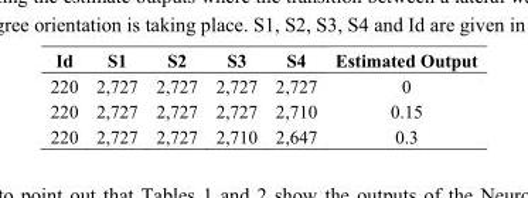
<table><thead><tr><td>Id</td><td>S1</td><td>S2</td><td>S3</td><td>S4</td><td>Estimated Output</td></tr></thead><tbody><tr><td>220</td><td>2,727</td><td>2,727</td><td>2,727</td><td>2,727</td><td>0</td></tr><tr><td>220</td><td>2,727</td><td>2,727</td><td>2,727</td><td>2,710</td><td>0.15</td></tr><tr><td>220</td><td>2,727</td><td>2,727</td><td>2,710</td><td>2,647</td><td>0.3</td></tr></tbody></table>